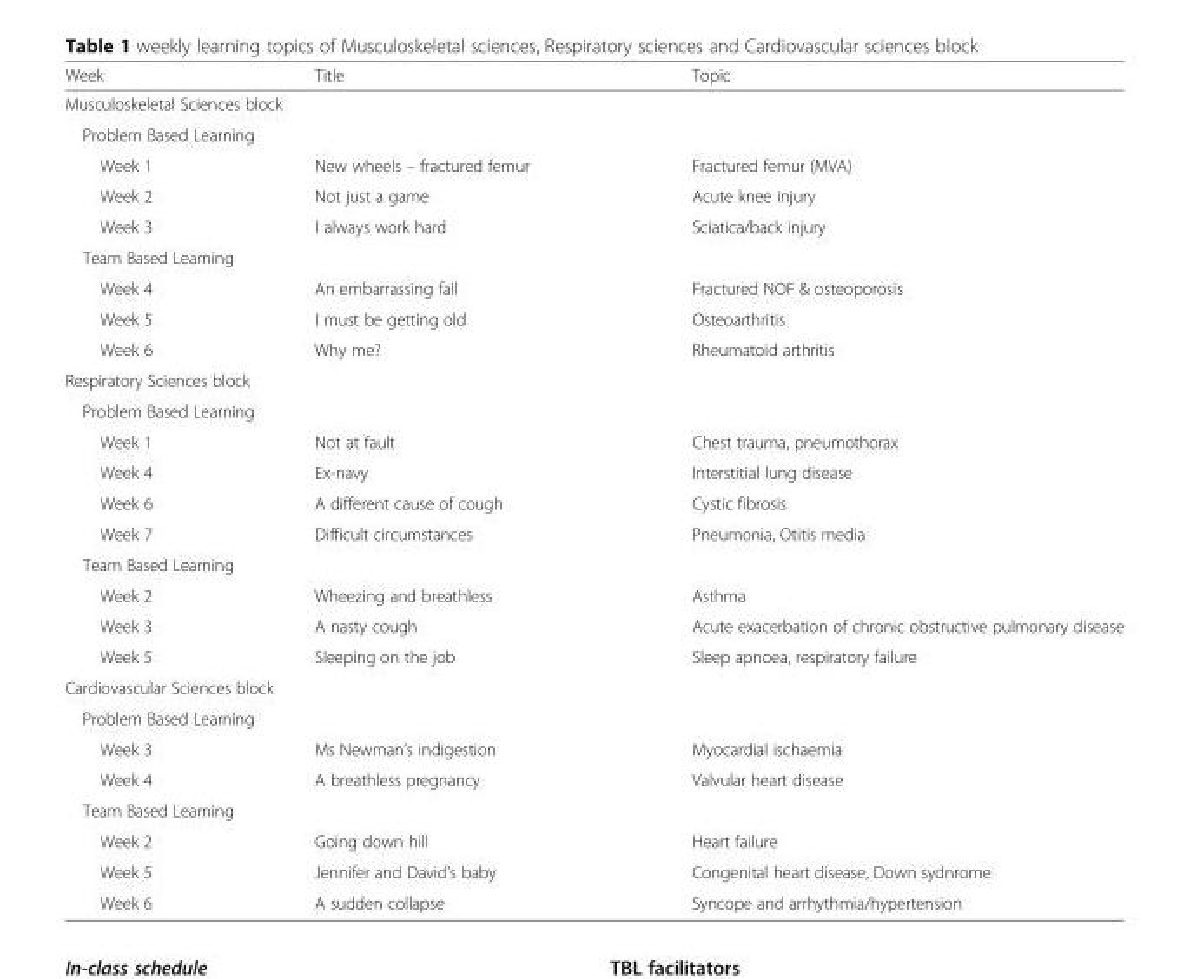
<table><thead><tr><td>Week</td><td>Title</td><td>Topic</td></tr></thead><tbody><tr><td colspan="3">Musculoskeletal Sciences block</td></tr><tr><td colspan="3">Problem Based Learning</td></tr><tr><td>Week 1</td><td>New wheels – fractured femur</td><td>Fractured femur (MVA)</td></tr><tr><td>Week 2</td><td>Not just a game</td><td>Acute knee injury</td></tr><tr><td>Week 3</td><td>I always work hard</td><td>Sciatica/back injury</td></tr><tr><td colspan="3">Team Based Learning</td></tr><tr><td>Week 4</td><td>An embarrassing fall</td><td>Fractured NOF &amp; osteoporosis</td></tr><tr><td>Week 5</td><td>I must be getting old</td><td>Osteoarthritis</td></tr><tr><td>Week 6</td><td>Why me?</td><td>Rheumatoid arthritis</td></tr><tr><td colspan="3">Respiratory Sciences block</td></tr><tr><td colspan="3">Problem Based Learning</td></tr><tr><td>Week 1</td><td>Not at fault</td><td>Chest trauma, pneumothorax</td></tr><tr><td>Week 4</td><td>Ex-navy</td><td>Interstitial lung disease</td></tr><tr><td>Week 6</td><td>A different cause of cough</td><td>Cystic fibrosis</td></tr><tr><td>Week 7</td><td>Difficult circumstances</td><td>Pneumonia, Otitis media</td></tr><tr><td colspan="3">Team Based Learning</td></tr><tr><td>Week 2</td><td>Wheezing and breathless</td><td>Asthma</td></tr><tr><td>Week 3</td><td>A nasty cough</td><td>Acute exacerbation of chronic obstructive pulmonary disease</td></tr><tr><td>Week 5</td><td>Sleeping on the job</td><td>Sleep apnoea, respiratory failure</td></tr><tr><td colspan="3">Cardiovascular Sciences block</td></tr><tr><td colspan="3">Problem Based Learning</td></tr><tr><td>Week 3</td><td>Ms Newman’s indigestion</td><td>Myocardial ischaemia</td></tr><tr><td>Week 4</td><td>A breathless pregnancy</td><td>Valvular heart disease</td></tr><tr><td colspan="3">Team Based Learning</td></tr><tr><td>Week 2</td><td>Going down hill</td><td>Heart failure</td></tr><tr><td>Week 5</td><td>Jennifer and David’s baby</td><td>Congenital heart disease, Down sydnrome</td></tr><tr><td>Week 6</td><td>A sudden collapse</td><td>Syncope and arrhythmia/hypertension</td></tr></tbody></table>